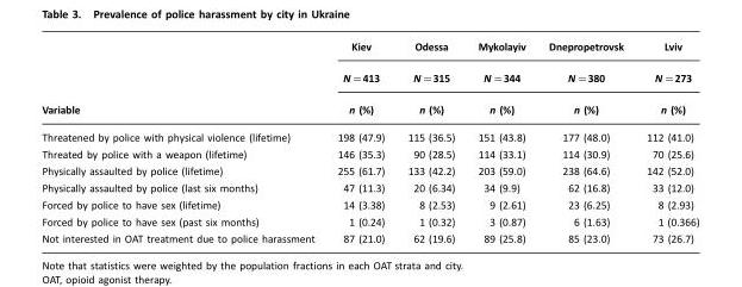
<table><thead><tr><td rowspan="3">Variable</td><td rowspan="3">Kiev N=413 n (%)</td><td rowspan="3">Odessa N=315 n (%)</td><td rowspan="3">Mykolayiv N=344 n (%)</td><td rowspan="3">Dnepropetrovsk N=380 n (%)</td><td rowspan="3">Lviv N=273 n (%)</td></tr><tr></tr><tr></tr></thead><tbody><tr><td>Threatened by police with physical violence (lifetime)</td><td>198 (47.9)</td><td>115 (36.5)</td><td>151 (43.8)</td><td>177 (48.0)</td><td>112 (41.0)</td></tr><tr><td>Threated by police with a weapon (lifetime)</td><td>146 (35.3)</td><td>90 (28.5)</td><td>114 (33.1)</td><td>114 (30.9)</td><td>70 (25.6)</td></tr><tr><td>Physically assaulted by police (lifetime)</td><td>255 (61.7)</td><td>133 (42.2)</td><td>203 (59.0)</td><td>238 (64.6)</td><td>142 (52.0)</td></tr><tr><td>Physically assaulted by police (last six months)</td><td>47 (11.3)</td><td>20 (6.34)</td><td>34 (9.9)</td><td>62 (16.8)</td><td>33 (12.0)</td></tr><tr><td>Forced by police to have sex (lifetime)</td><td>14 (3.38)</td><td>8 (2.53)</td><td>9 (2.61)</td><td>23 (6.25)</td><td>8 (2.93)</td></tr><tr><td>Forced by police to have sex (past six months)</td><td>1 (0.24)</td><td>1 (0.32)</td><td>3 (0.87)</td><td>6 (1.63)</td><td>1 (0.366)</td></tr><tr><td>Not interested in OAT treatment due to police harassment</td><td>87 (21.0)</td><td>62 (19.6)</td><td>89 (25.8)</td><td>85 (23.0)</td><td>73 (26.7)</td></tr></tbody></table>